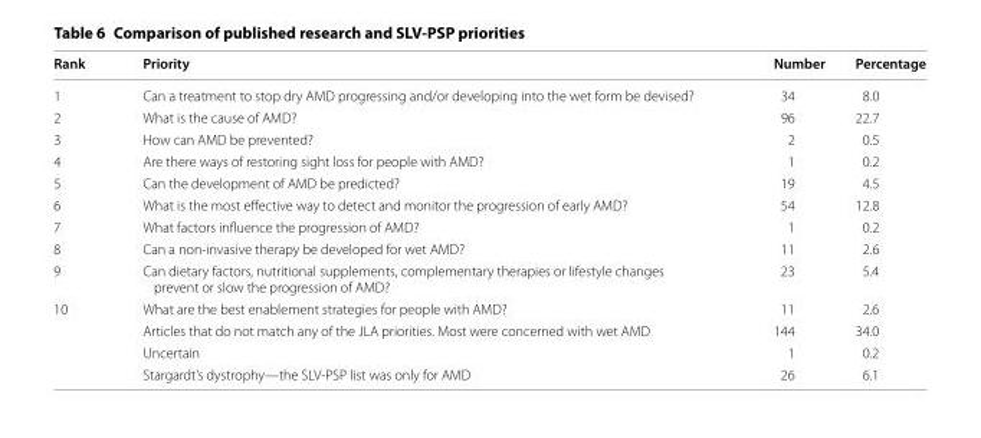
<table><thead><tr><td>Rank</td><td>Priority</td><td>Number</td><td>Percentage</td></tr></thead><tbody><tr><td>1</td><td>Can a treatment to stop dry AMD progressing and/or developing into the wet form be devised?</td><td>34</td><td>8.0</td></tr><tr><td>2</td><td>What is the cause of AMD?</td><td>96</td><td>22.7</td></tr><tr><td>3</td><td>How can AMD be prevented?</td><td>2</td><td>0.5</td></tr><tr><td>4</td><td>Are there ways of restoring sight loss for people with AMD?</td><td>1</td><td>0.2</td></tr><tr><td>5</td><td>Can the development of AMD be predicted?</td><td>19</td><td>4.5</td></tr><tr><td>6</td><td>What is the most effective way to detect and monitor the progression of early AMD?</td><td>54</td><td>12.8</td></tr><tr><td>7</td><td>What factors influence the progression of AMD?</td><td>1</td><td>0.2</td></tr><tr><td>8</td><td>Can a non-invasive therapy be developed for wet AMD?</td><td>11</td><td>2.6</td></tr><tr><td>9</td><td>Can dietary factors, nutritional supplements, complementary therapies or lifestyle changes prevent or slow the progression of AMD?</td><td>23</td><td>5.4</td></tr><tr><td rowspan="4">10</td><td>What are the best enablement strategies for people with AMD?</td><td>11</td><td>2.6</td></tr><tr><td>Articles that do not match any of the JLA priorities. Most were concerned with wet AMD</td><td>144</td><td>34.0</td></tr><tr><td>Uncertain</td><td>1</td><td>0.2</td></tr><tr><td>Stargardt’s dystrophy—the SLV-PSP list was only for AMD</td><td>26</td><td>6.1</td></tr></tbody></table>